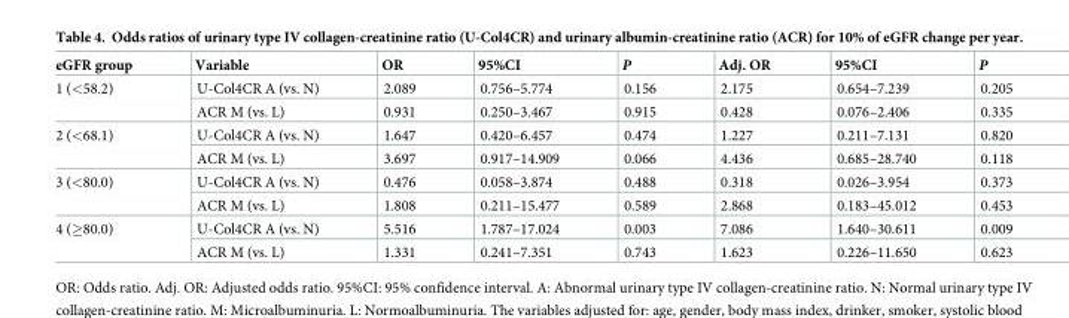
<table><thead><tr><td>eGFR group</td><td>Variable</td><td>OR</td><td>95%CI</td><td>P</td><td>Adj. OR</td><td>95%CI</td><td>P</td></tr></thead><tbody><tr><td rowspan="2">1 (&lt;58.2)</td><td>U-Col4CR A (vs. N)</td><td>2.089</td><td>0.756–5.774</td><td>0.156</td><td>2.175</td><td>0.654–7.239</td><td>0.205</td></tr><tr><td>ACR M (vs. L)</td><td>0.931</td><td>0.250–3.467</td><td>0.915</td><td>0.428</td><td>0.076–2.406</td><td>0.335</td></tr><tr><td rowspan="2">2 (&lt;68.1)</td><td>U-Col4CR A (vs. N)</td><td>1.647</td><td>0.420–6.457</td><td>0.474</td><td>1.227</td><td>0.211–7.131</td><td>0.820</td></tr><tr><td>ACR M (vs. L)</td><td>3.697</td><td>0.917–14.909</td><td>0.066</td><td>4.436</td><td>0.685–28.740</td><td>0.118</td></tr><tr><td rowspan="2">3 (&lt;80.0)</td><td>U-Col4CR A (vs. N)</td><td>0.476</td><td>0.058–3.874</td><td>0.488</td><td>0.318</td><td>0.026–3.954</td><td>0.373</td></tr><tr><td>ACR M (vs. L)</td><td>1.808</td><td>0.211–15.477</td><td>0.589</td><td>2.868</td><td>0.183–45.012</td><td>0.453</td></tr><tr><td rowspan="2">4 (≥80.0)</td><td>U-Col4CR A (vs. N)</td><td>5.516</td><td>1.787–17.024</td><td>0.003</td><td>7.086</td><td>1.640–30.611</td><td>0.009</td></tr><tr><td>ACR M (vs. L)</td><td>1.331</td><td>0.241–7.351</td><td>0.743</td><td>1.623</td><td>0.226–11.650</td><td>0.623</td></tr></tbody></table>